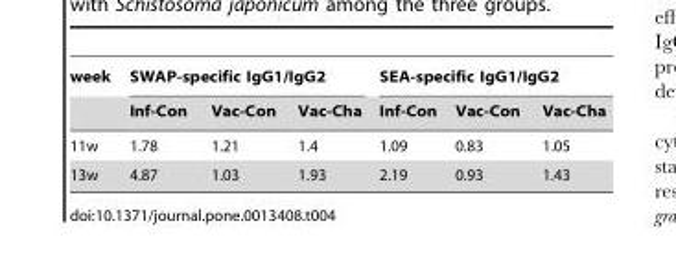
<table><thead><tr><td rowspan="2">week</td><td colspan="3">SWAP-specific IgG1/IgG2</td><td colspan="3">SEA-specific IgG1/IgG2</td></tr><tr><td>Inf-Con</td><td>Vac-Con</td><td>Vac-Cha</td><td>Inf-Con</td><td>Vac-Con</td><td>Vac-Cha</td></tr></thead><tbody><tr><td>11w</td><td>1.78</td><td>1.21</td><td>1.4</td><td>1.09</td><td>0.83</td><td>1.05</td></tr><tr><td>13w</td><td>4.87</td><td>1.03</td><td>1.93</td><td>2.19</td><td>0.93</td><td>1.43</td></tr></tbody></table>